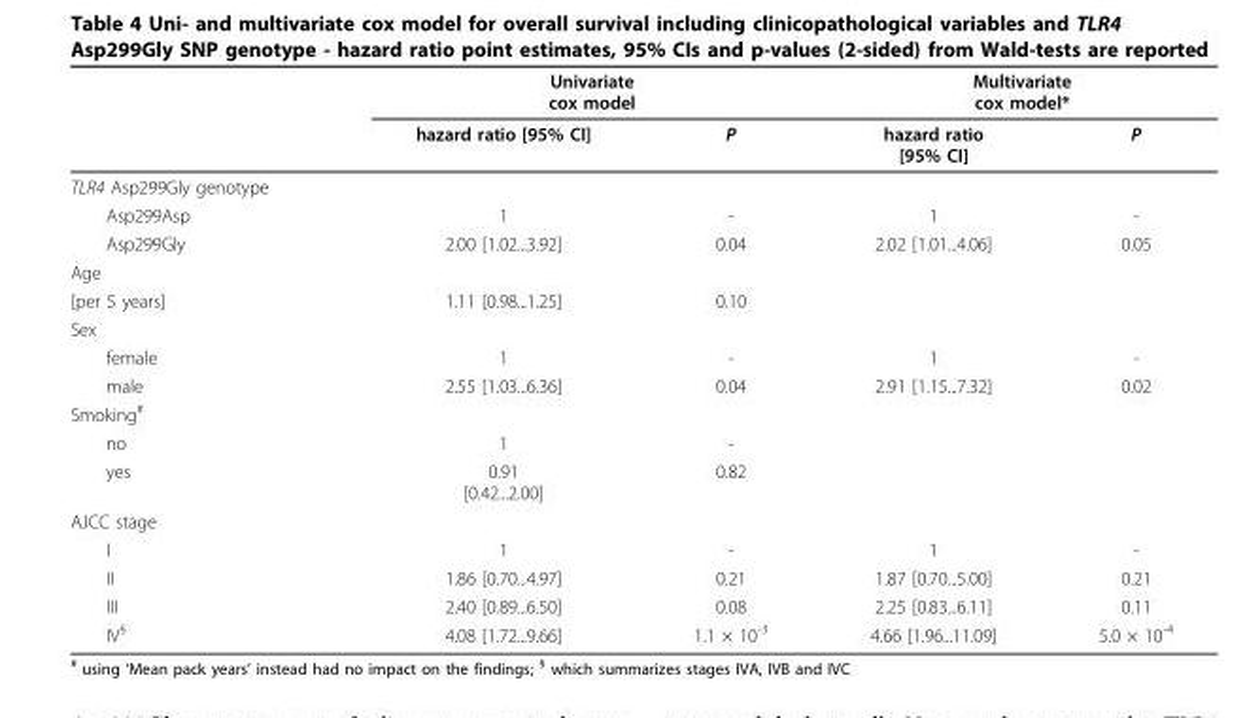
<table><thead><tr><td rowspan="2"></td><td colspan="2">Univariate cox model</td><td colspan="2">Multivariate cox model*</td></tr><tr><td>hazard ratio [95% CI]</td><td>P</td><td>hazard ratio [95% CI]</td><td>P</td></tr></thead><tbody><tr><td colspan="5">TLR4 Asp299Gly genotype</td></tr><tr><td>Asp299Asp</td><td>1</td><td>-</td><td>1</td><td>-</td></tr><tr><td>Asp299Gly</td><td>2.00 [1.02...3.92]</td><td>0.04</td><td>2.02 [1.01...4.06]</td><td>0.05</td></tr><tr><td colspan="5">Age</td></tr><tr><td>[per 5 years]</td><td>1.11 [0.98...1.25]</td><td>0.10</td><td></td><td></td></tr><tr><td colspan="5">Sex</td></tr><tr><td>female</td><td>1</td><td>-</td><td>1</td><td>-</td></tr><tr><td>male</td><td>2.55 [1.03...6.36]</td><td>0.04</td><td>2.91 [1.15...7.32]</td><td>0.02</td></tr><tr><td colspan="5">Smoking<sup>#</sup></td></tr><tr><td>no</td><td>1</td><td>-</td><td></td><td></td></tr><tr><td>yes</td><td>0.91 [0.42...2.00]</td><td>0.82</td><td></td><td></td></tr><tr><td colspan="5">AJCC stage</td></tr><tr><td>I</td><td>1</td><td>-</td><td>1</td><td>-</td></tr><tr><td>II</td><td>1.86 [0.70...4.97]</td><td>0.21</td><td>1.87 [0.70...5.00]</td><td>0.21</td></tr><tr><td>III</td><td>2.40 [0.89...6.50]</td><td>0.08</td><td>2.25 [0.83...6.11]</td><td>0.11</td></tr><tr><td>IV<sup>§</sup></td><td>4.08 [1.72...9.66]</td><td>1.1 × 10<sup>-3</sup></td><td>4.66 [1.96...11.09]</td><td>5.0 × 10<sup>-4</sup></td></tr></tbody></table>